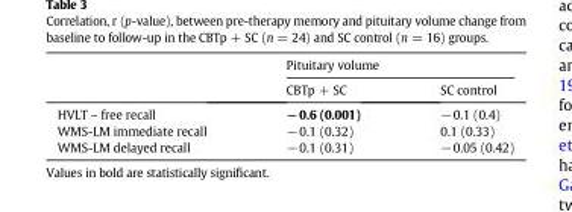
<table><thead><tr><td rowspan="2"></td><td colspan="2">Pituitary volume</td></tr><tr><td>CBTp + SC</td><td>SC control</td></tr></thead><tbody><tr><td>HVLT – free recall</td><td>−0.6 (0.001)</td><td>−0.1 (0.4)</td></tr><tr><td>WMS-LM immediate recall</td><td>−0.1 (0.32)</td><td>0.1 (0.33)</td></tr><tr><td>WMS-LM delayed recall</td><td>−0.1 (0.31)</td><td>−0.05 (0.42)</td></tr></tbody></table>